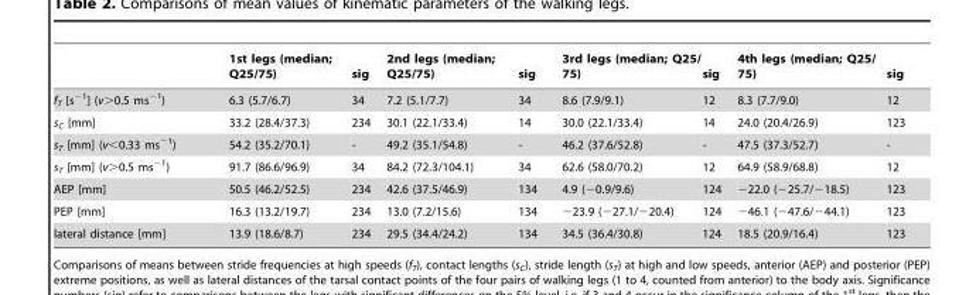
<table><thead><tr><td></td><td>1st legs (median; Q25/75)</td><td>sig</td><td>2nd legs (median; Q25/75)</td><td>sig</td><td>3rd legs (median; Q25/ 75)</td><td>sig</td><td>4th legs (median; Q25/ 75)</td><td>sig</td></tr></thead><tbody><tr><td>f<sub>T</sub> [s<sup>−1</sup>] (v&gt;0.5 ms<sup>−1</sup>)</td><td>6.3 (5.7/6.7)</td><td>34</td><td>7.2 (5.1/7.7)</td><td>34</td><td>8.6 (7.9/9.1)</td><td>12</td><td>8.3 (7.7/9.0)</td><td>12</td></tr><tr><td>s<sub>C</sub> [mm]</td><td>33.2 (28.4/37.3)</td><td>234</td><td>30.1 (22.1/33.4)</td><td>14</td><td>30.0 (22.1/33.4)</td><td>14</td><td>24.0 (20.4/26.9)</td><td>123</td></tr><tr><td>s<sub>T</sub> [mm] (v&lt;0.33 ms<sup>−1</sup>)</td><td>54.2 (35.2/70.1)</td><td>-</td><td>49.2 (35.1/54.8)</td><td>-</td><td>46.2 (37.6/52.8)</td><td>-</td><td>47.5 (37.3/52.7)</td><td>-</td></tr><tr><td>s<sub>T</sub> [mm] (v&gt;0.5 ms<sup>−1</sup>)</td><td>91.7 (86.6/96.9)</td><td>34</td><td>84.2 (72.3/104.1)</td><td>34</td><td>62.6 (58.0/70.2)</td><td>12</td><td>64.9 (58.9/68.8)</td><td>12</td></tr><tr><td>AEP [mm]</td><td>50.5 (46.2/52.5)</td><td>234</td><td>42.6 (37.5/46.9)</td><td>134</td><td>4.9 (−0.9/9.6)</td><td>124</td><td>−22.0 (−25.7/−18.5)</td><td>123</td></tr><tr><td>PEP [mm]</td><td>16.3 (13.2/19.7)</td><td>234</td><td>13.0 (7.2/15.6)</td><td>134</td><td>−23.9 (−27.1/−20.4)</td><td>124</td><td>−46.1 (−47.6/−44.1)</td><td>123</td></tr><tr><td>lateral distance [mm]</td><td>13.9 (18.6/8.7)</td><td>234</td><td>29.5 (34.4/24.2)</td><td>134</td><td>34.5 (36.4/30.8)</td><td>124</td><td>18.5 (20.9/16.4)</td><td>123</td></tr></tbody></table>